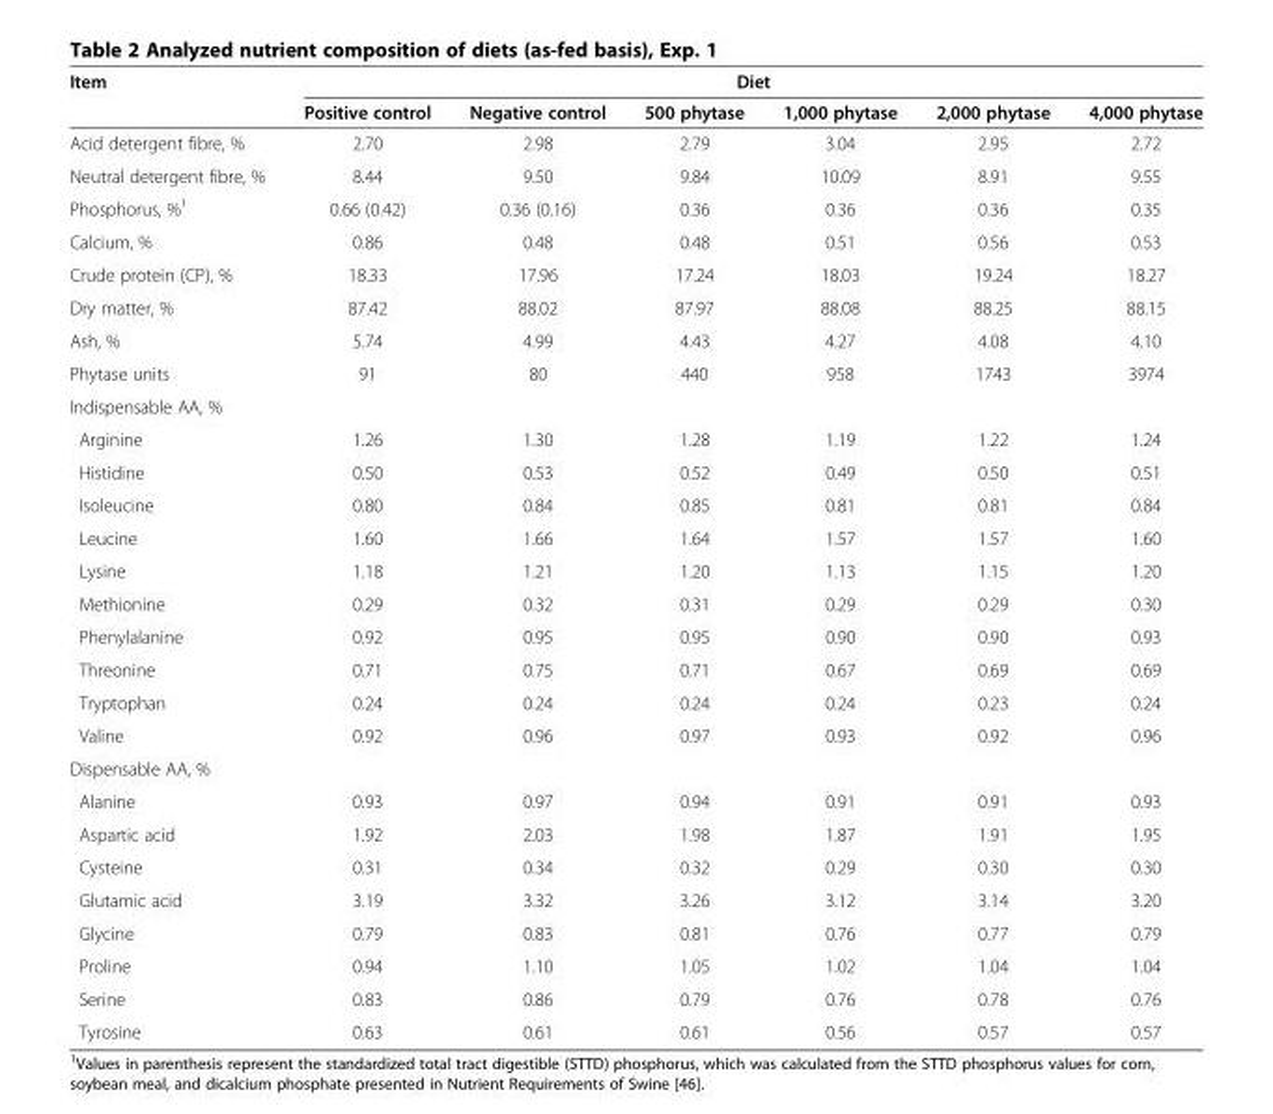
<table><thead><tr><td rowspan="2">Item</td><td colspan="6">Diet</td></tr><tr><td>Positive control</td><td>Negative control</td><td>500 phytase</td><td>1,000 phytase</td><td>2,000 phytase</td><td>4,000 phytase</td></tr></thead><tbody><tr><td>Acid detergent fibre, %</td><td>2.70</td><td>2.98</td><td>2.79</td><td>3.04</td><td>2.95</td><td>2.72</td></tr><tr><td>Neutral detergent fibre, %</td><td>8.44</td><td>9.50</td><td>9.84</td><td>10.09</td><td>8.91</td><td>9.55</td></tr><tr><td>Phosphorus, %<sup>1</sup></td><td>0.66 (0.42)</td><td>0.36 (0.16)</td><td>0.36</td><td>0.36</td><td>0.36</td><td>0.35</td></tr><tr><td>Calcium, %</td><td>0.86</td><td>0.48</td><td>0.48</td><td>0.51</td><td>0.56</td><td>0.53</td></tr><tr><td>Crude protein (CP), %</td><td>18.33</td><td>17.96</td><td>17.24</td><td>18.03</td><td>19.24</td><td>18.27</td></tr><tr><td>Dry matter, %</td><td>87.42</td><td>88.02</td><td>87.97</td><td>88.08</td><td>88.25</td><td>88.15</td></tr><tr><td>Ash, %</td><td>5.74</td><td>4.99</td><td>4.43</td><td>4.27</td><td>4.08</td><td>4.10</td></tr><tr><td>Phytase units</td><td>91</td><td>80</td><td>440</td><td>958</td><td>1743</td><td>3974</td></tr><tr><td colspan="7">Indispensable AA, %</td></tr><tr><td>Arginine</td><td>1.26</td><td>1.30</td><td>1.28</td><td>1.19</td><td>1.22</td><td>1.24</td></tr><tr><td>Histidine</td><td>0.50</td><td>0.53</td><td>0.52</td><td>0.49</td><td>0.50</td><td>0.51</td></tr><tr><td>Isoleucine</td><td>0.80</td><td>0.84</td><td>0.85</td><td>0.81</td><td>0.81</td><td>0.84</td></tr><tr><td>Leucine</td><td>1.60</td><td>1.66</td><td>1.64</td><td>1.57</td><td>1.57</td><td>1.60</td></tr><tr><td>Lysine</td><td>1.18</td><td>1.21</td><td>1.20</td><td>1.13</td><td>1.15</td><td>1.20</td></tr><tr><td>Methionine</td><td>0.29</td><td>0.32</td><td>0.31</td><td>0.29</td><td>0.29</td><td>0.30</td></tr><tr><td>Phenylalanine</td><td>0.92</td><td>0.95</td><td>0.95</td><td>0.90</td><td>0.90</td><td>0.93</td></tr><tr><td>Threonine</td><td>0.71</td><td>0.75</td><td>0.71</td><td>0.67</td><td>0.69</td><td>0.69</td></tr><tr><td>Tryptophan</td><td>0.24</td><td>0.24</td><td>0.24</td><td>0.24</td><td>0.23</td><td>0.24</td></tr><tr><td>Valine</td><td>0.92</td><td>0.96</td><td>0.97</td><td>0.93</td><td>0.92</td><td>0.96</td></tr><tr><td colspan="7">Dispensable AA, %</td></tr><tr><td>Alanine</td><td>0.93</td><td>0.97</td><td>0.94</td><td>0.91</td><td>0.91</td><td>0.93</td></tr><tr><td>Aspartic acid</td><td>1.92</td><td>2.03</td><td>1.98</td><td>1.87</td><td>1.91</td><td>1.95</td></tr><tr><td>Cysteine</td><td>0.31</td><td>0.34</td><td>0.32</td><td>0.29</td><td>0.30</td><td>0.30</td></tr><tr><td>Glutamic acid</td><td>3.19</td><td>3.32</td><td>3.26</td><td>3.12</td><td>3.14</td><td>3.20</td></tr><tr><td>Glycine</td><td>0.79</td><td>0.83</td><td>0.81</td><td>0.76</td><td>0.77</td><td>0.79</td></tr><tr><td>Proline</td><td>0.94</td><td>1.10</td><td>1.05</td><td>1.02</td><td>1.04</td><td>1.04</td></tr><tr><td>Serine</td><td>0.83</td><td>0.86</td><td>0.79</td><td>0.76</td><td>0.78</td><td>0.76</td></tr><tr><td>Tyrosine</td><td>0.63</td><td>0.61</td><td>0.61</td><td>0.56</td><td>0.57</td><td>0.57</td></tr></tbody></table>